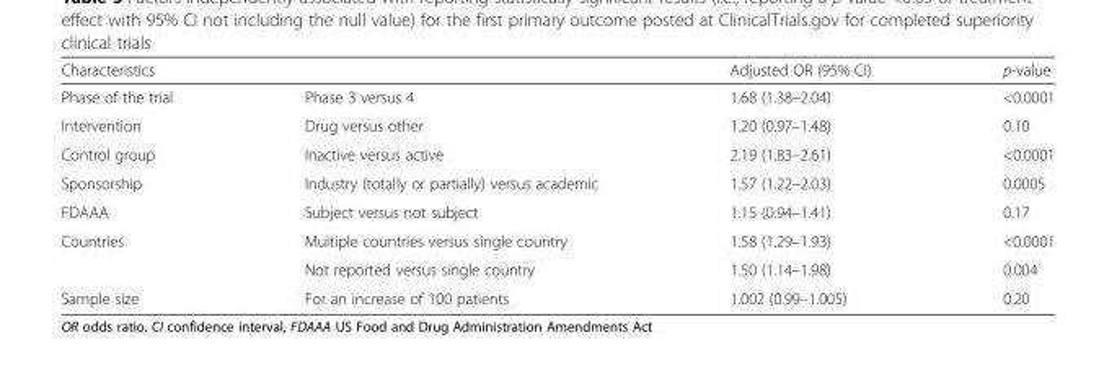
<table><thead><tr><td colspan="2">Characteristics</td><td rowspan="2">Adjusted OR (95% CI) 1.68 (1.38–2.04)</td><td rowspan="2">p-value &lt;0.0001</td></tr><tr><td>Phase of the trial</td><td>Phase 3 versus 4</td></tr></thead><tbody><tr><td>Intervention</td><td>Drug versus other</td><td>1.20 (0.97–1.48)</td><td>0.10</td></tr><tr><td>Control group</td><td>Inactive versus active</td><td>2.19 (1.83–2.61)</td><td>&lt;0.0001</td></tr><tr><td>Sponsorship</td><td>Industry (totally or partially) versus academic</td><td>1.57 (1.22–2.03)</td><td>0.0005</td></tr><tr><td>FDAAA</td><td>Subject versus not subject</td><td>1.15 (0.94–1.41)</td><td>0.17</td></tr><tr><td rowspan="2">Countries</td><td>Multiple countries versus single country</td><td>1.58 (1.29–1.93)</td><td>&lt;0.0001</td></tr><tr><td>Not reported versus single country</td><td>1.50 (1.14–1.98)</td><td>0.004</td></tr><tr><td>Sample size</td><td>For an increase of 100 patients</td><td>1.002 (0.99–1.005)</td><td>0.20</td></tr></tbody></table>